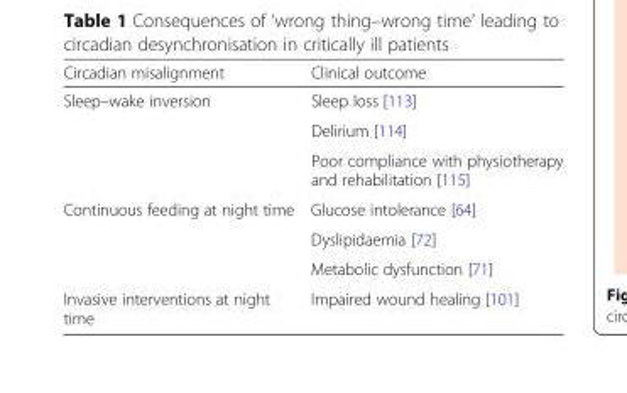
<table><thead><tr><td>Circadian misalignment</td><td>Clinical outcome</td></tr></thead><tbody><tr><td rowspan="3">Sleep–wake inversion</td><td>Sleep loss [113]</td></tr><tr><td>Delirium [114]</td></tr><tr><td>Poor compliance with physiotherapy and rehabilitation [115]</td></tr><tr><td rowspan="3">Continuous feeding at night time</td><td>Glucose intolerance [64]</td></tr><tr><td>Dyslipidaemia [72]</td></tr><tr><td>Metabolic dysfunction [71]</td></tr><tr><td>Invasive interventions at night time</td><td>Impaired wound healing [101]</td></tr></tbody></table>